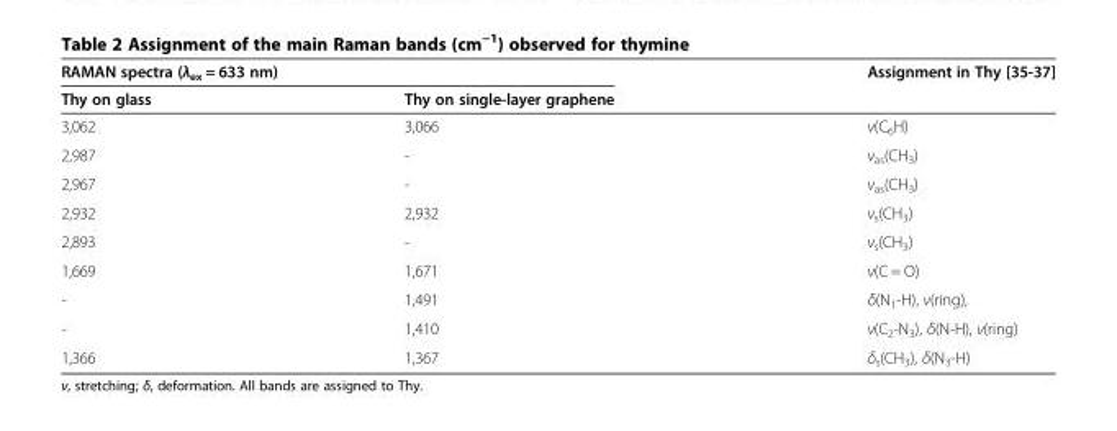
<table><thead><tr><td colspan="2">RAMAN spectra (λ<sub>ex</sub> = 633 nm)</td><td rowspan="2">Assignment in Thy [35-37]</td></tr><tr><td>Thy on glass</td><td>Thy on single-layer graphene</td></tr></thead><tbody><tr><td>3,062</td><td>3,066</td><td>ν(C<sub>6</sub>H)</td></tr><tr><td>2,987</td><td>-</td><td>ν<sub>as</sub>(CH<sub>3</sub>)</td></tr><tr><td>2,967</td><td>-</td><td>ν<sub>as</sub>(CH<sub>3</sub>)</td></tr><tr><td>2,932</td><td>2,932</td><td>ν<sub>s</sub>(CH<sub>3</sub>)</td></tr><tr><td>2,893</td><td>-</td><td>ν<sub>s</sub>(CH<sub>3</sub>)</td></tr><tr><td>1,669</td><td>1,671</td><td>ν(C = O)</td></tr><tr><td>-</td><td>1,491</td><td>δ(N<sub>1</sub>-H), ν(ring),</td></tr><tr><td>-</td><td>1,410</td><td>ν(C<sub>2</sub>-N<sub>3</sub>), δ(N-H), ν(ring)</td></tr><tr><td>1,366</td><td>1,367</td><td>δ<sub>s</sub>(CH<sub>3</sub>), δ(N<sub>3</sub>-H)</td></tr></tbody></table>